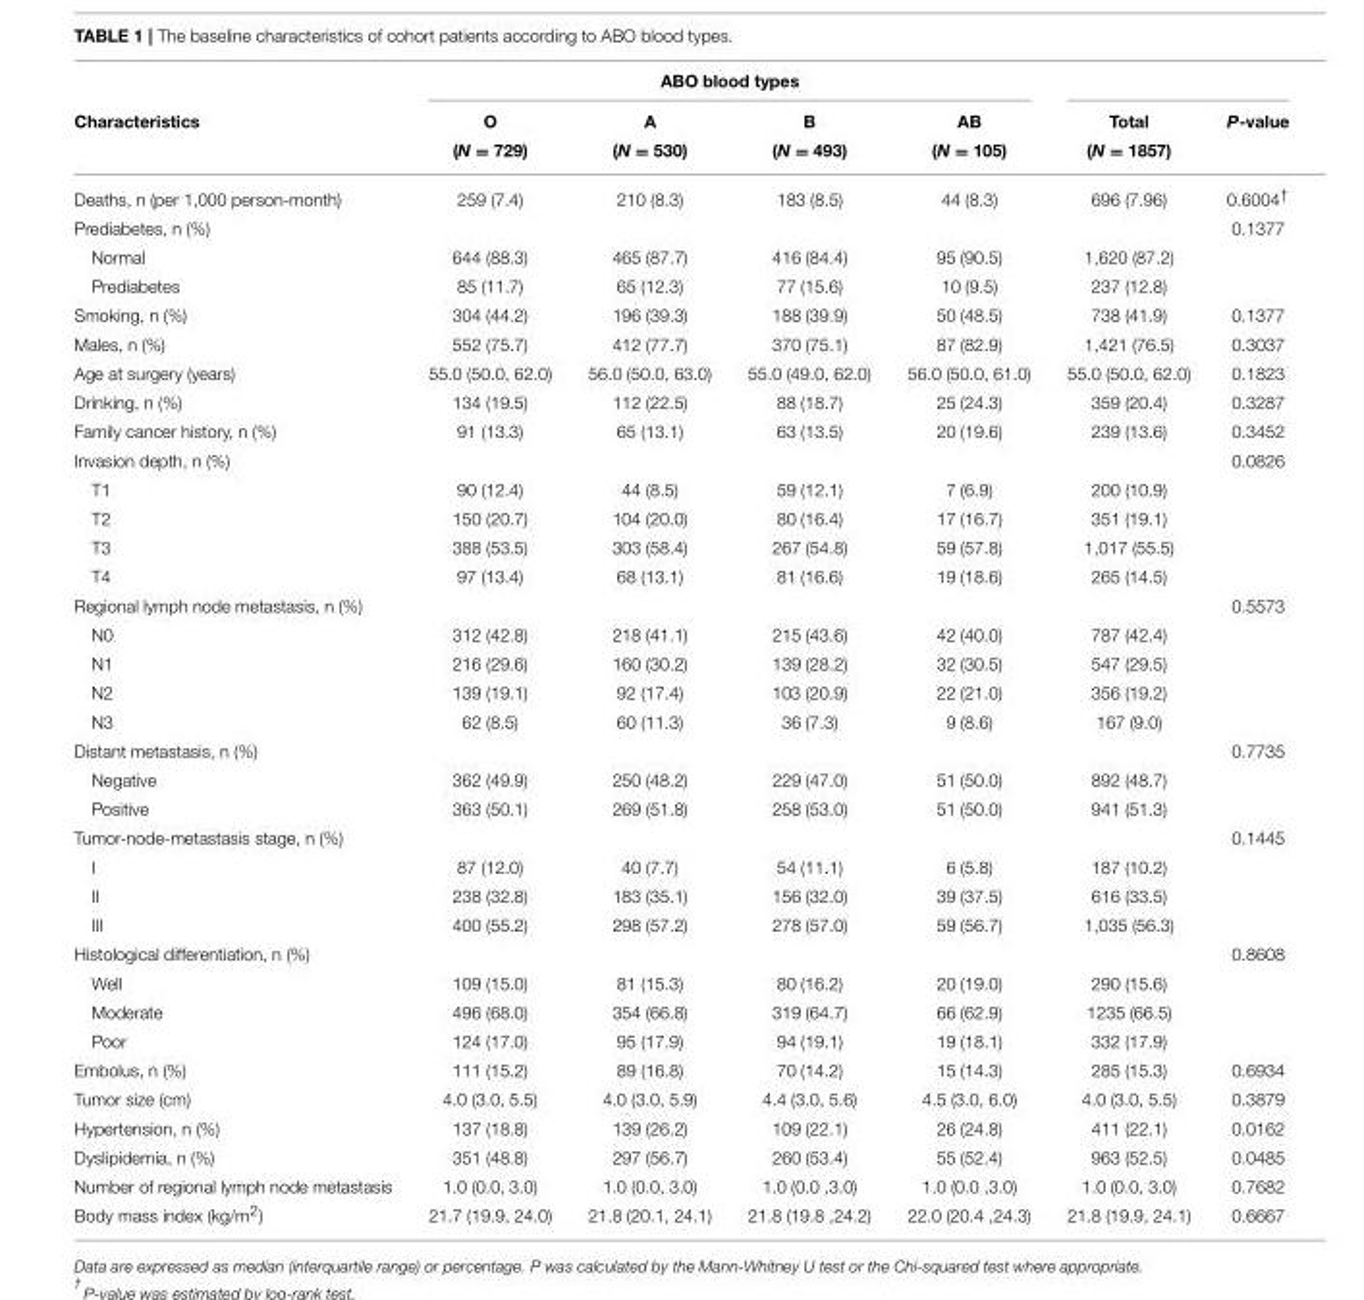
<table><thead><tr><td rowspan="3">Characteristics</td><td colspan="4">ABO blood types</td><td rowspan="3">Total (N = 1857)</td><td rowspan="3">P-value</td></tr><tr><td rowspan="2">O (N = 729)</td><td rowspan="2">A (N = 530)</td><td rowspan="2">B (N = 493)</td><td rowspan="2">AB (N = 105)</td></tr><tr></tr></thead><tbody><tr><td>Deaths, n (per 1,000 person-month)</td><td>259 (7.4)</td><td>210 (8.3)</td><td>183 (8.5)</td><td>44 (8.3)</td><td>696 (7.96)</td><td>0.6004<sup>†</sup></td></tr><tr><td>Prediabetes, n (%)</td><td></td><td></td><td></td><td></td><td></td><td>0.1377</td></tr><tr><td>Normal</td><td>644 (88.3)</td><td>465 (87.7)</td><td>416 (84.4)</td><td>95 (90.5)</td><td>1,620 (87.2)</td><td></td></tr><tr><td>Prediabetes</td><td>85 (11.7)</td><td>65 (12.3)</td><td>77 (15.6)</td><td>10 (9.5)</td><td>237 (12.8)</td><td></td></tr><tr><td>Smoking, n (%)</td><td>304 (44.2)</td><td>196 (39.3)</td><td>188 (39.9)</td><td>50 (48.5)</td><td>738 (41.9)</td><td>0.1377</td></tr><tr><td>Males, n (%)</td><td>552 (75.7)</td><td>412 (77.7)</td><td>370 (75.1)</td><td>87 (82.9)</td><td>1,421 (76.5)</td><td>0.3037</td></tr><tr><td>Age at surgery (years)</td><td>55.0 (50.0, 62.0)</td><td>56.0 (50.0, 63.0)</td><td>55.0 (49.0, 62.0)</td><td>56.0 (50.0, 61.0)</td><td>55.0 (50.0, 62.0)</td><td>0.1823</td></tr><tr><td>Drinking, n (%)</td><td>134 (19.5)</td><td>112 (22.5)</td><td>88 (18.7)</td><td>25 (24.3)</td><td>359 (20.4)</td><td>0.3287</td></tr><tr><td>Family cancer history, n (%)</td><td>91 (13.3)</td><td>65 (13.1)</td><td>63 (13.5)</td><td>20 (19.6)</td><td>239 (13.6)</td><td>0.3452</td></tr><tr><td>Invasion depth, n (%)</td><td></td><td></td><td></td><td></td><td></td><td>0.0826</td></tr><tr><td>T1</td><td>90 (12.4)</td><td>44 (8.5)</td><td>59 (12.1)</td><td>7 (6.9)</td><td>200 (10.9)</td><td></td></tr><tr><td>T2</td><td>150 (20.7)</td><td>104 (20.0)</td><td>80 (16.4)</td><td>17 (16.7)</td><td>351 (19.1)</td><td></td></tr><tr><td>T3</td><td>388 (53.5)</td><td>303 (58.4)</td><td>267 (54.8)</td><td>59 (57.8)</td><td>1,017 (55.5)</td><td></td></tr><tr><td>T4</td><td>97 (13.4)</td><td>68 (13.1)</td><td>81 (16.6)</td><td>19 (18.6)</td><td>265 (14.5)</td><td></td></tr><tr><td>Regional lymph node metastasis, n (%)</td><td></td><td></td><td></td><td></td><td></td><td>0.5573</td></tr><tr><td>N0</td><td>312 (42.8)</td><td>218 (41.1)</td><td>215 (43.6)</td><td>42 (40.0)</td><td>787 (42.4)</td><td></td></tr><tr><td>N1</td><td>216 (29.6)</td><td>160 (30.2)</td><td>139 (28.2)</td><td>32 (30.5)</td><td>547 (29.5)</td><td></td></tr><tr><td>N2</td><td>139 (19.1)</td><td>92 (17.4)</td><td>103 (20.9)</td><td>22 (21.0)</td><td>356 (19.2)</td><td></td></tr><tr><td>N3</td><td>62 (8.5)</td><td>60 (11.3)</td><td>36 (7.3)</td><td>9 (8.6)</td><td>167 (9.0)</td><td></td></tr><tr><td>Distant metastasis, n (%)</td><td></td><td></td><td></td><td></td><td></td><td>0.7735</td></tr><tr><td>Negative</td><td>362 (49.9)</td><td>250 (48.2)</td><td>229 (47.0)</td><td>51 (50.0)</td><td>892 (48.7)</td><td></td></tr><tr><td>Positive</td><td>363 (50.1)</td><td>269 (51.8)</td><td>258 (53.0)</td><td>51 (50.0)</td><td>941 (51.3)</td><td></td></tr><tr><td>Tumor-node-metastasis stage, n (%)</td><td></td><td></td><td></td><td></td><td></td><td>0.1445</td></tr><tr><td>I</td><td>87 (12.0)</td><td>40 (7.7)</td><td>54 (11.1)</td><td>6 (5.8)</td><td>187 (10.2)</td><td></td></tr><tr><td>II</td><td>238 (32.8)</td><td>183 (35.1)</td><td>156 (32.0)</td><td>39 (37.5)</td><td>616 (33.5)</td><td></td></tr><tr><td>III</td><td>400 (55.2)</td><td>298 (57.2)</td><td>278 (57.0)</td><td>59 (56.7)</td><td>1,035 (56.3)</td><td></td></tr><tr><td>Histological differentiation, n (%)</td><td></td><td></td><td></td><td></td><td></td><td>0.8608</td></tr><tr><td>Well</td><td>109 (15.0)</td><td>81 (15.3)</td><td>80 (16.2)</td><td>20 (19.0)</td><td>290 (15.6)</td><td></td></tr><tr><td>Moderate</td><td>496 (68.0)</td><td>354 (66.8)</td><td>319 (64.7)</td><td>66 (62.9)</td><td>1235 (66.5)</td><td></td></tr><tr><td>Poor</td><td>124 (17.0)</td><td>95 (17.9)</td><td>94 (19.1)</td><td>19 (18.1)</td><td>332 (17.9)</td><td></td></tr><tr><td>Embolus, n (%)</td><td>111 (15.2)</td><td>89 (16.8)</td><td>70 (14.2)</td><td>15 (14.3)</td><td>285 (15.3)</td><td>0.6934</td></tr><tr><td>Tumor size (cm)</td><td>4.0 (3.0, 5.5)</td><td>4.0 (3.0, 5.9)</td><td>4.4 (3.0, 5.6)</td><td>4.5 (3.0, 6.0)</td><td>4.0 (3.0, 5.5)</td><td>0.3879</td></tr><tr><td>Hypertension, n (%)</td><td>137 (18.8)</td><td>139 (26.2)</td><td>109 (22.1)</td><td>26 (24.8)</td><td>411 (22.1)</td><td>0.0162</td></tr><tr><td>Dyslipidemia, n (%)</td><td>351 (48.8)</td><td>297 (56.7)</td><td>260 (53.4)</td><td>55 (52.4)</td><td>963 (52.5)</td><td>0.0485</td></tr><tr><td>Number of regional lymph node metastasis</td><td>1.0 (0.0, 3.0)</td><td>1.0 (0.0, 3.0)</td><td>1.0 (0.0 ,3.0)</td><td>1.0 (0.0 ,3.0)</td><td>1.0 (0.0, 3.0)</td><td>0.7682</td></tr><tr><td>Body mass index (kg/m<sup>2</sup>)</td><td>21.7 (19.9, 24.0)</td><td>21.8 (20.1, 24.1)</td><td>21.8 (19.8 ,24.2)</td><td>22.0 (20.4 ,24.3)</td><td>21.8 (19.9, 24.1)</td><td>0.6667</td></tr></tbody></table>